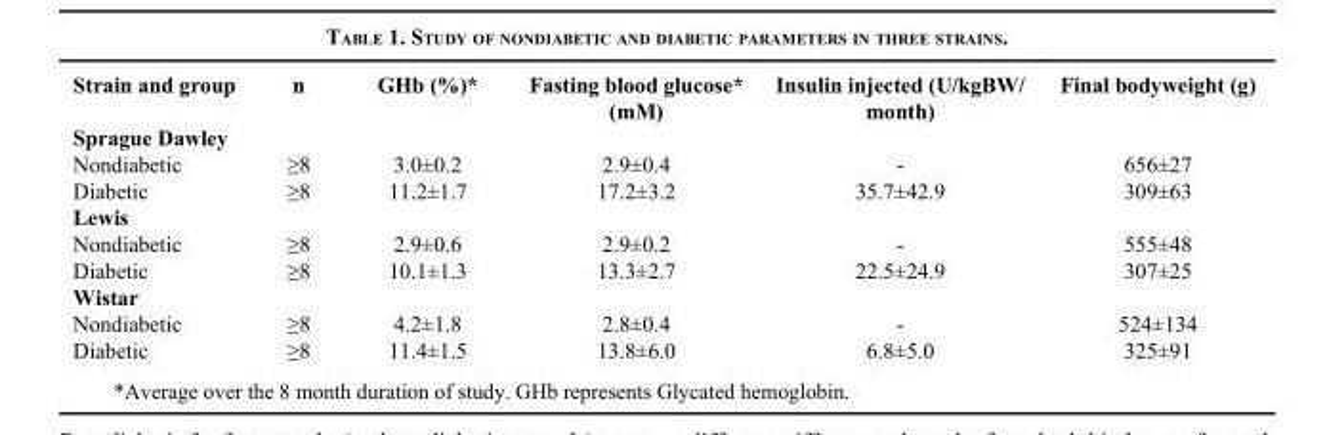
<table><thead><tr><td>Strain and group</td><td>n</td><td>GHb (%)*</td><td>Fasting blood glucose* (mM)</td><td>Insulin injected (U/kgBW/ month)</td><td>Final bodyweight (g)</td></tr></thead><tbody><tr><td colspan="6">Sprague Dawley</td></tr><tr><td>Nondiabetic</td><td>≥8</td><td>3.0±0.2</td><td>2.9±0.4</td><td>-</td><td>656±27</td></tr><tr><td>Diabetic</td><td>≥8</td><td>11.2±1.7</td><td>17.2±3.2</td><td>35.7±42.9</td><td>309±63</td></tr><tr><td colspan="6">Lewis</td></tr><tr><td>Nondiabetic</td><td>≥8</td><td>2.9±0.6</td><td>2.9±0.2</td><td>-</td><td>555±48</td></tr><tr><td>Diabetic</td><td>≥8</td><td>10.1±1.3</td><td>13.3±2.7</td><td>22.5±24.9</td><td>307±25</td></tr><tr><td colspan="6">Wistar</td></tr><tr><td>Nondiabetic</td><td>≥8</td><td>4.2±1.8</td><td>2.8±0.4</td><td>-</td><td>524±134</td></tr><tr><td>Diabetic</td><td>≥8</td><td>11.4±1.5</td><td>13.8±6.0</td><td>6.8±5.0</td><td>325±91</td></tr></tbody></table>